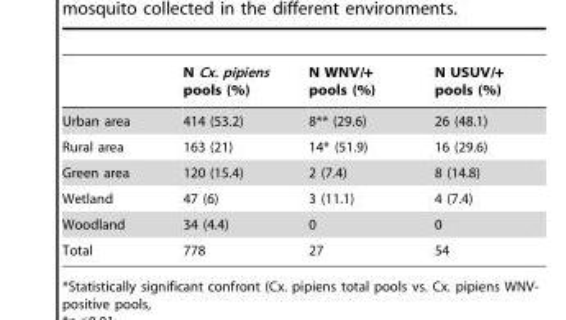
<table><thead><tr><td></td><td>N Cx. pipiens pools (%)</td><td>N WNV/+ pools (%)</td><td>N USUV/+ pools (%)</td></tr></thead><tbody><tr><td>Urban area</td><td>414 (53.2)</td><td>8** (29.6)</td><td>26 (48.1)</td></tr><tr><td>Rural area</td><td>163 (21)</td><td>14* (51.9)</td><td>16 (29.6)</td></tr><tr><td>Green area</td><td>120 (15.4)</td><td>2 (7.4)</td><td>8 (14.8)</td></tr><tr><td>Wetland</td><td>47 (6)</td><td>3 (11.1)</td><td>4 (7.4)</td></tr><tr><td>Woodland</td><td>34 (4.4)</td><td>0</td><td>0</td></tr><tr><td>Total</td><td>778</td><td>27</td><td>54</td></tr></tbody></table>